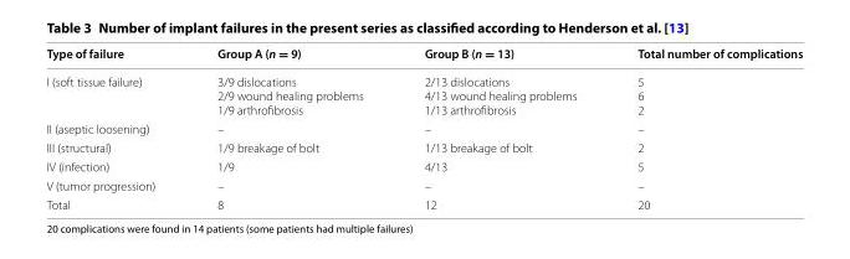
<table><thead><tr><td>Type of failure</td><td>Group A (n = 9)</td><td>Group B (n = 13)</td><td>Total number of complications</td></tr></thead><tbody><tr><td>I (soft tissue failure)</td><td>3/9 dislocations 2/9 wound healing problems 1/9 arthrofibrosis</td><td>2/13 dislocations 4/13 wound healing problems 1/13 arthrofibrosis</td><td>5 6 2</td></tr><tr><td>II (aseptic loosening)</td><td>–</td><td>–</td><td>–</td></tr><tr><td>III (structural)</td><td>1/9 breakage of bolt</td><td>1/13 breakage of bolt</td><td>2</td></tr><tr><td>IV (infection)</td><td>1/9</td><td>4/13</td><td>5</td></tr><tr><td>V (tumor progression)</td><td>–</td><td>–</td><td>–</td></tr><tr><td>Total</td><td>8</td><td>12</td><td>20</td></tr></tbody></table>